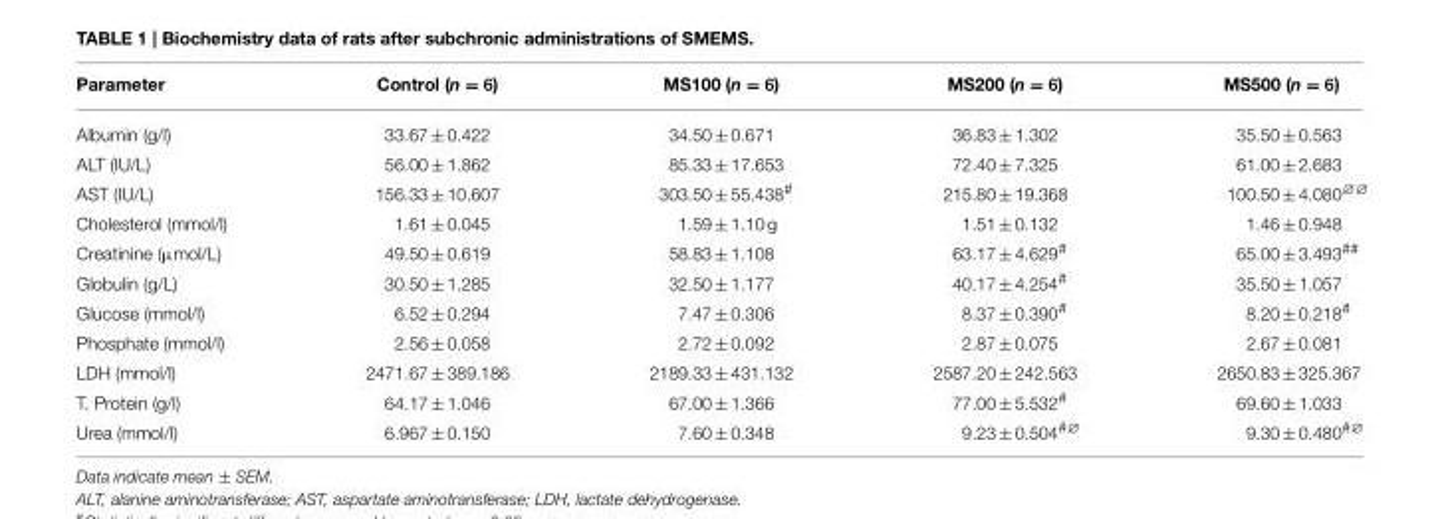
<table><thead><tr><td>Parameter</td><td>Control (n = 6)</td><td>MS100 (n = 6)</td><td>MS200 (n = 6)</td><td>MS500 (n = 6)</td></tr></thead><tbody><tr><td>Albumin (g/l)</td><td>33.67 ± 0.422</td><td>34.50 ± 0.671</td><td>36.83 ± 1.302</td><td>35.50 ± 0.563</td></tr><tr><td>ALT (IU/L)</td><td>56.00 ± 1.862</td><td>85.33 ± 17.653</td><td>72.40 ± 7.325</td><td>61.00 ± 2.683</td></tr><tr><td>AST (IU/L)</td><td>156.33 ± 10.607</td><td>303.50 ± 55.438<sup>#</sup></td><td>215.80 ± 19.368</td><td>100.50 ± 4.080<sup>∅∅</sup></td></tr><tr><td>Cholesterol (mmol/l)</td><td>1.61 ± 0.045</td><td>1.59 ± 1.10 g</td><td>1.51 ± 0.132</td><td>1.46 ± 0.948</td></tr><tr><td>Creatinine (µmol/L)</td><td>49.50 ± 0.619</td><td>58.83 ± 1.108</td><td>63.17 ± 4.629<sup>#</sup></td><td>65.00 ± 3.493<sup>##</sup></td></tr><tr><td>Globulin (g/L)</td><td>30.50 ± 1.285</td><td>32.50 ± 1.177</td><td>40.17 ± 4.254<sup>#</sup></td><td>35.50 ± 1.057</td></tr><tr><td>Glucose (mmol/l)</td><td>6.52 ± 0.294</td><td>7.47 ± 0.306</td><td>8.37 ± 0.390<sup>#</sup></td><td>8.20 ± 0.218<sup>#</sup></td></tr><tr><td>Phosphate (mmol/l)</td><td>2.56 ± 0.058</td><td>2.72 ± 0.092</td><td>2.87 ± 0.075</td><td>2.67 ± 0.081</td></tr><tr><td>LDH (mmol/l)</td><td>2471.67 ± 389.186</td><td>2189.33 ± 431.132</td><td>2587.20 ± 242.563</td><td>2650.83 ± 325.367</td></tr><tr><td>T. Protein (g/l)</td><td>64.17 ± 1.046</td><td>67.00 ± 1.366</td><td>77.00 ± 5.532<sup>#</sup></td><td>69.60 ± 1.033</td></tr><tr><td>Urea (mmol/l)</td><td>6.967 ± 0.150</td><td>7.60 ± 0.348</td><td>9.23 ± 0.504<sup>#∅</sup></td><td>9.30 ± 0.480<sup>#∅</sup></td></tr></tbody></table>